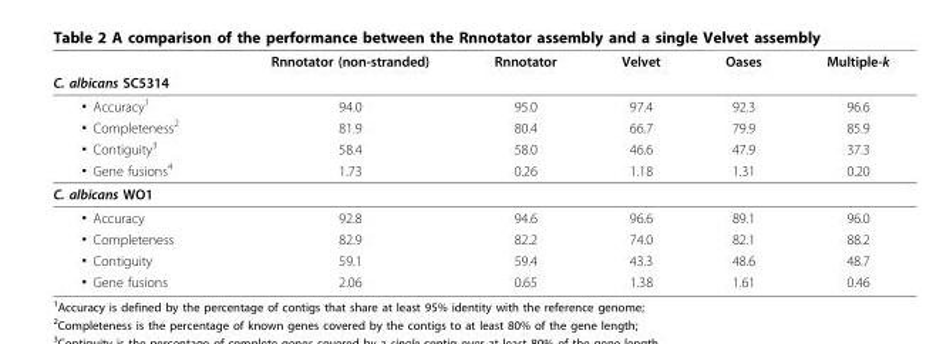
<table><thead><tr><td rowspan="2">C. albicans SC5314</td><td rowspan="2">Rnnotator (non-stranded)</td><td rowspan="2">Rnnotator</td><td rowspan="2">Velvet</td><td rowspan="2">Oases</td><td rowspan="2">Multiple-k</td></tr><tr></tr></thead><tbody><tr><td>▪ Accuracy<sup>1</sup></td><td>94.0</td><td>95.0</td><td>97.4</td><td>92.3</td><td>96.6</td></tr><tr><td>▪ Completeness<sup>2</sup></td><td>81.9</td><td>80.4</td><td>66.7</td><td>79.9</td><td>85.9</td></tr><tr><td>▪ Contiguity<sup>3</sup></td><td>58.4</td><td>58.0</td><td>46.6</td><td>47.9</td><td>37.3</td></tr><tr><td>▪ Gene fusions<sup>4</sup></td><td>1.73</td><td>0.26</td><td>1.18</td><td>1.31</td><td>0.20</td></tr><tr><td colspan="6">C. albicans WO1</td></tr><tr><td>▪ Accuracy</td><td>92.8</td><td>94.6</td><td>96.6</td><td>89.1</td><td>96.0</td></tr><tr><td>▪ Completeness</td><td>82.9</td><td>82.2</td><td>74.0</td><td>82.1</td><td>88.2</td></tr><tr><td>▪ Contiguity</td><td>59.1</td><td>59.4</td><td>43.3</td><td>48.6</td><td>48.7</td></tr><tr><td>▪ Gene fusions</td><td>2.06</td><td>0.65</td><td>1.38</td><td>1.61</td><td>0.46</td></tr></tbody></table>